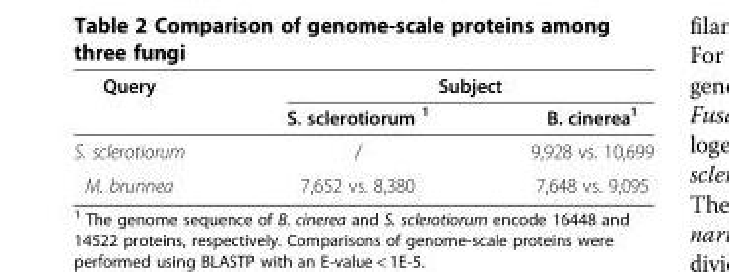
<table><thead><tr><td rowspan="2">Query</td><td colspan="2">Subject</td></tr><tr><td>S. sclerotiorum <sup>1</sup></td><td>B. cinerea<sup>1</sup></td></tr></thead><tbody><tr><td>S. sclerotiorum</td><td>/</td><td>9,928 vs. 10,699</td></tr><tr><td>M. brunnea</td><td>7,652 vs. 8,380</td><td>7,648 vs. 9,095</td></tr></tbody></table>